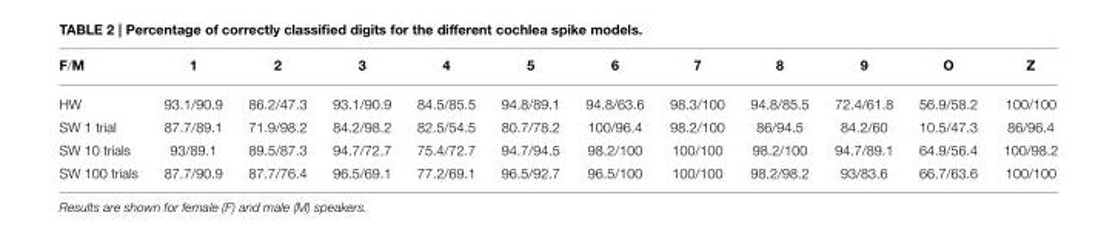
<table><thead><tr><td>F/M</td><td>1</td><td>2</td><td>3</td><td>4</td><td>5</td><td>6</td><td>7</td><td>8</td><td>9</td><td>O</td><td>Z</td></tr></thead><tbody><tr><td>HW</td><td>93.1/90.9</td><td>86.2/47.3</td><td>93.1/90.9</td><td>84.5/85.5</td><td>94.8/89.1</td><td>94.8/63.6</td><td>98.3/100</td><td>94.8/85.5</td><td>72.4/61.8</td><td>56.9/58.2</td><td>100/100</td></tr><tr><td>SW 1 trial</td><td>87.7/89.1</td><td>71.9/98.2</td><td>84.2/98.2</td><td>82.5/54.5</td><td>80.7/78.2</td><td>100/96.4</td><td>98.2/100</td><td>86/94.5</td><td>84.2/60</td><td>10.5/47.3</td><td>86/96.4</td></tr><tr><td>SW 10 trials</td><td>93/89.1</td><td>89.5/87.3</td><td>94.7/72.7</td><td>75.4/72.7</td><td>94.7/94.5</td><td>98.2/100</td><td>100/100</td><td>98.2/100</td><td>94.7/89.1</td><td>64.9/56.4</td><td>100/98.2</td></tr><tr><td>SW 100 trials</td><td>87.7/90.9</td><td>87.7/76.4</td><td>96.5/69.1</td><td>77.2/69.1</td><td>96.5/92.7</td><td>96.5/100</td><td>100/100</td><td>98.2/98.2</td><td>93/83.6</td><td>66.7/63.6</td><td>100/100</td></tr></tbody></table>